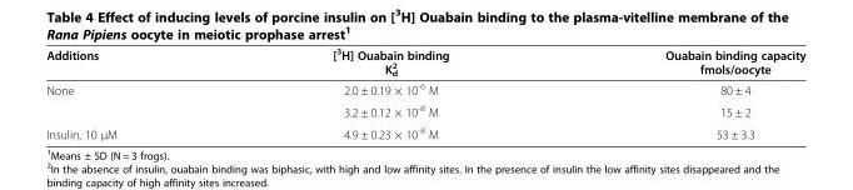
<table><thead><tr><td>Additions</td><td>[<sup>3</sup>H] Ouabain binding K<sub>d</sub> <sup>2</sup></td><td>Ouabain binding capacity fmols/oocyte</td></tr></thead><tbody><tr><td rowspan="2">None</td><td>2.0 ± 0.19 × 10<sup>-6</sup> M</td><td>80 ± 4</td></tr><tr><td>3.2 ± 0.12 × 10<sup>-8</sup> M</td><td>15 ± 2</td></tr><tr><td>Insulin, 10 μM</td><td>4.9 ± 0.23 × 10<sup>-8</sup> M</td><td>53 ± 3.3</td></tr></tbody></table>